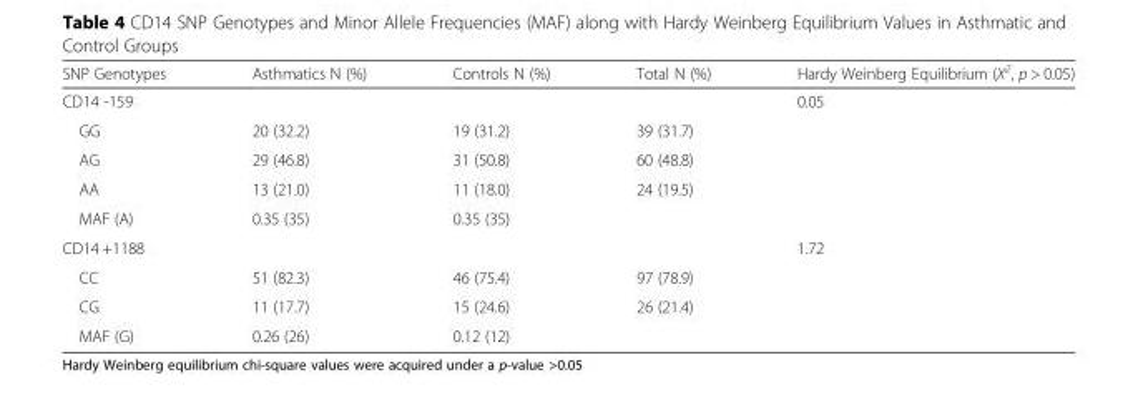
<table><thead><tr><td>SNP Genotypes</td><td>Asthmatics N (%)</td><td>Controls N (%)</td><td>Total N (%)</td><td>Hardy Weinberg Equilibrium (X<sup>2</sup>, p &gt; 0.05)</td></tr></thead><tbody><tr><td colspan="4">CD14 -159</td><td rowspan="5">0.05</td></tr><tr><td>GG</td><td>20 (32.2)</td><td>19 (31.2)</td><td>39 (31.7)</td></tr><tr><td>AG</td><td>29 (46.8)</td><td>31 (50.8)</td><td>60 (48.8)</td></tr><tr><td>AA</td><td>13 (21.0)</td><td>11 (18.0)</td><td>24 (19.5)</td></tr><tr><td>MAF (A)</td><td>0.35 (35)</td><td>0.35 (35)</td><td></td></tr><tr><td colspan="4">CD14 +1188</td><td rowspan="4">1.72</td></tr><tr><td>CC</td><td>51 (82.3)</td><td>46 (75.4)</td><td>97 (78.9)</td></tr><tr><td>CG</td><td>11 (17.7)</td><td>15 (24.6)</td><td>26 (21.4)</td></tr><tr><td>MAF (G)</td><td>0.26 (26)</td><td>0.12 (12)</td><td></td></tr></tbody></table>